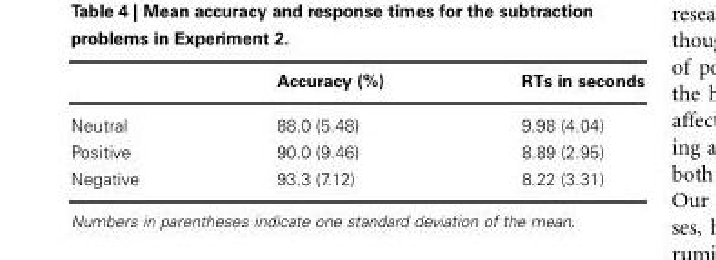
<table><thead><tr><td></td><td>Accuracy (%)</td><td>RTs in seconds</td></tr></thead><tbody><tr><td>Neutral</td><td>88.0 (5.48)</td><td>9.98 (4.04)</td></tr><tr><td>Positive</td><td>90.0 (9.46)</td><td>8.89 (2.95)</td></tr><tr><td>Negative</td><td>93.3 (7.12)</td><td>8.22 (3.31)</td></tr></tbody></table>